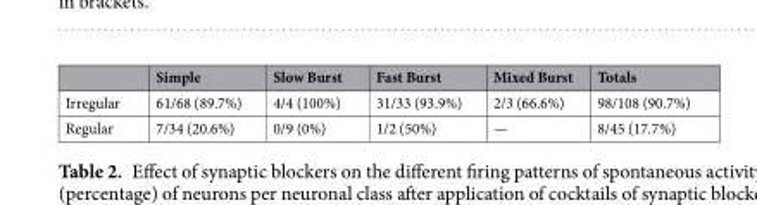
<table><thead><tr><td></td><td>Simple</td><td>Slow Burst</td><td>Fast Burst</td><td>Mixed Burst</td><td>Totals</td></tr></thead><tbody><tr><td>Irregular</td><td>61/68 (89.7%)</td><td>4/4 (100%)</td><td>31/33 (93.9%)</td><td>2/3 (66.6%)</td><td>98/108 (90.7%)</td></tr><tr><td>Regular</td><td>7/34 (20.6%)</td><td>0/9 (0%)</td><td>1/2 (50%)</td><td>—</td><td>8/45 (17.7%)</td></tr></tbody></table>